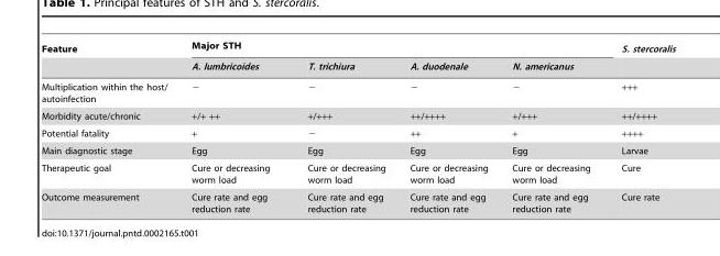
<table><thead><tr><td rowspan="2">Feature</td><td colspan="4">Major STH</td><td rowspan="2">S. stercoralis</td></tr><tr><td>A. lumbricoides</td><td>T. trichiura</td><td>A. duodenale</td><td>N. americanus</td></tr></thead><tbody><tr><td>Multiplication within the host/ autoinfection</td><td>−</td><td>−</td><td>−</td><td>−</td><td>+++</td></tr><tr><td>Morbidity acute/chronic</td><td>+/+ ++</td><td>+/+++</td><td>++/++++</td><td>+/+++</td><td>++/++++</td></tr><tr><td>Potential fatality</td><td>+</td><td>−</td><td>++</td><td>+</td><td>++++</td></tr><tr><td>Main diagnostic stage</td><td>Egg</td><td>Egg</td><td>Egg</td><td>Egg</td><td>Larvae</td></tr><tr><td>Therapeutic goal</td><td>Cure or decreasing worm load</td><td>Cure or decreasing worm load</td><td>Cure or decreasing worm load</td><td>Cure or decreasing worm load</td><td>Cure</td></tr><tr><td>Outcome measurement</td><td>Cure rate and egg reduction rate</td><td>Cure rate and egg reduction rate</td><td>Cure rate and egg reduction rate</td><td>Cure rate and egg reduction rate</td><td>Cure rate</td></tr></tbody></table>